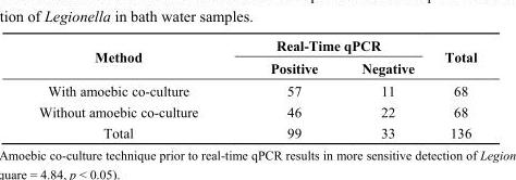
<table><thead><tr><td rowspan="2">Method</td><td colspan="2">Real-Time qPCR</td><td rowspan="2">Total</td></tr><tr><td>Positive</td><td>Negative</td></tr></thead><tbody><tr><td>With amoebic co-culture</td><td>57</td><td>11</td><td>68</td></tr><tr><td>Without amoebic co-culture</td><td>46</td><td>22</td><td>68</td></tr><tr><td>Total</td><td>99</td><td>33</td><td>136</td></tr></tbody></table>